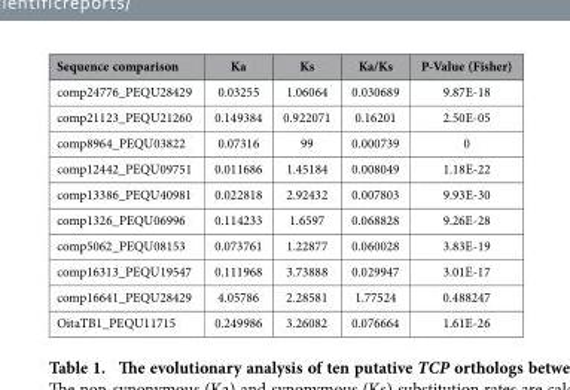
<table><thead><tr><td>Sequence comparison</td><td>Ka</td><td>Ks</td><td>Ka/Ks</td><td>P-Value (Fisher)</td></tr></thead><tbody><tr><td>comp24776_PEQU28429</td><td>0.03255</td><td>1.06064</td><td>0.030689</td><td>9.87E-18</td></tr><tr><td>comp21123_PEQU21260</td><td>0.149384</td><td>0.922071</td><td>0.16201</td><td>2.50E-05</td></tr><tr><td>comp8964_PEQU03822</td><td>0.07316</td><td>99</td><td>0.000739</td><td>0</td></tr><tr><td>comp12442_PEQU09751</td><td>0.011686</td><td>1.45184</td><td>0.008049</td><td>1.18E-22</td></tr><tr><td>comp13386_PEQU40981</td><td>0.022818</td><td>2.92432</td><td>0.007803</td><td>9.93E-30</td></tr><tr><td>comp1326_PEQU06996</td><td>0.114233</td><td>1.6597</td><td>0.068828</td><td>9.26E-28</td></tr><tr><td>comp5062_PEQU08153</td><td>0.073761</td><td>1.22877</td><td>0.060028</td><td>3.83E-19</td></tr><tr><td>comp16313_PEQU19547</td><td>0.111968</td><td>3.73888</td><td>0.029947</td><td>3.01E-17</td></tr><tr><td>comp16641_PEQU28429</td><td>4.05786</td><td>2.28581</td><td>1.77524</td><td>0.488247</td></tr><tr><td>OitaTB1_PEQU11715</td><td>0.249986</td><td>3.26082</td><td>0.076664</td><td>1.61E-26</td></tr></tbody></table>